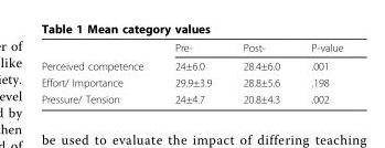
<table><thead><tr><td></td><td>Pre-</td><td>Post-</td><td>P-value</td></tr></thead><tbody><tr><td>Perceived competence</td><td>24±6.0</td><td>28.4±6.0</td><td>.001</td></tr><tr><td>Effort/ Importance</td><td>29.9±3.9</td><td>28.8±5.6</td><td>.198</td></tr><tr><td>Pressure/ Tension</td><td>24±4.7</td><td>20.8±4.3</td><td>.002</td></tr></tbody></table>